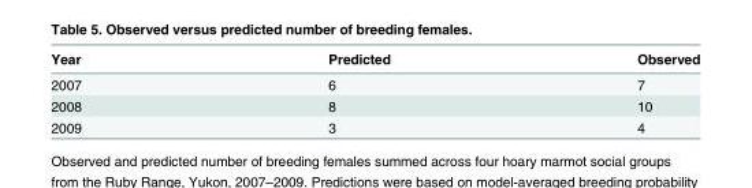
<table><thead><tr><td>Year</td><td>Predicted</td><td>Observed</td></tr></thead><tbody><tr><td>2007</td><td>6</td><td>7</td></tr><tr><td>2008</td><td>8</td><td>10</td></tr><tr><td>2009</td><td>3</td><td>4</td></tr></tbody></table>